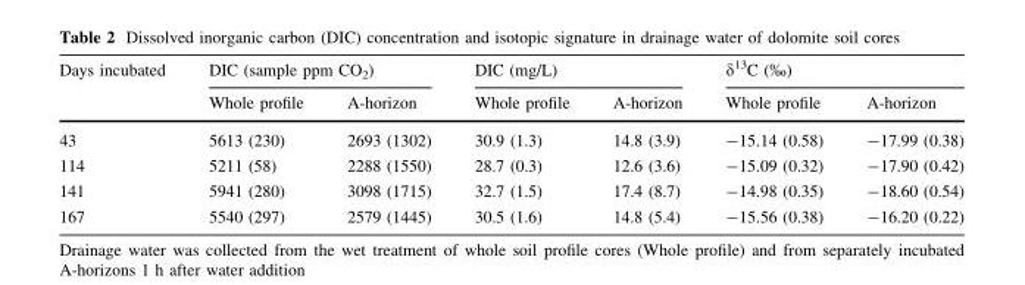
<table><thead><tr><td rowspan="2">Days incubated</td><td colspan="2">DIC (sample ppm CO<sub>2</sub>)</td><td colspan="2">DIC (mg/L)</td><td colspan="2">δ<sup>13</sup>C (‰)</td></tr><tr><td>Whole profile</td><td>A-horizon</td><td>Whole profile</td><td>A-horizon</td><td>Whole profile</td><td>A-horizon</td></tr></thead><tbody><tr><td>43</td><td>5613 (230)</td><td>2693 (1302)</td><td>30.9 (1.3)</td><td>14.8 (3.9)</td><td>-15.14 (0.58)</td><td>-17.99 (0.38)</td></tr><tr><td>114</td><td>5211 (58)</td><td>2288 (1550)</td><td>28.7 (0.3)</td><td>12.6 (3.6)</td><td>-15.09 (0.32)</td><td>-17.90 (0.42)</td></tr><tr><td>141</td><td>5941 (280)</td><td>3098 (1715)</td><td>32.7 (1.5)</td><td>17.4 (8.7)</td><td>-14.98 (0.35)</td><td>-18.60 (0.54)</td></tr><tr><td>167</td><td>5540 (297)</td><td>2579 (1445)</td><td>30.5 (1.6)</td><td>14.8 (5.4)</td><td>-15.56 (0.38)</td><td>-16.20 (0.22)</td></tr></tbody></table>